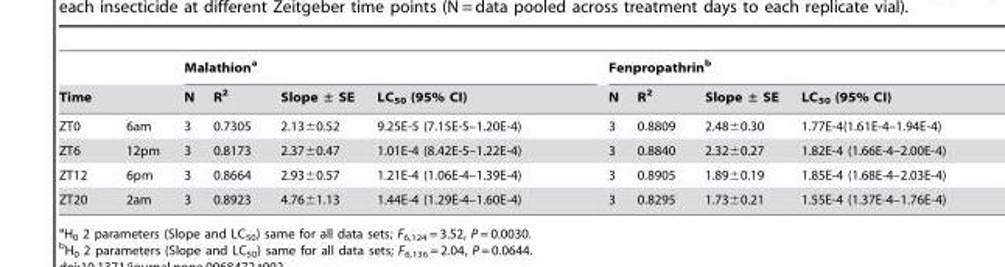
<table><thead><tr><td></td><td></td><td colspan="4">Malathion<sup>a</sup></td><td colspan="4">Fenpropathrin<sup>b</sup></td></tr><tr><td colspan="2">Time</td><td>N</td><td>R<sup>2</sup></td><td>Slope ± SE</td><td>LC<sub>50</sub> (95% CI)</td><td>N</td><td>R<sup>2</sup></td><td>Slope ± SE</td><td>LC<sub>50</sub> (95% CI)</td></tr></thead><tbody><tr><td>ZT0</td><td>6am</td><td>3</td><td>0.7305</td><td>2.13±0.52</td><td>9.25E-5 (7.15E-5–1.20E-4)</td><td>3</td><td>0.8809</td><td>2.48±0.30</td><td>1.77E-4(1.61E-4–1.94E-4)</td></tr><tr><td>ZT6</td><td>12pm</td><td>3</td><td>0.8173</td><td>2.37±0.47</td><td>1.01E-4 (8.42E-5–1.22E-4)</td><td>3</td><td>0.8840</td><td>2.32±0.27</td><td>1.82E-4 (1.66E-4–2.00E-4)</td></tr><tr><td>ZT12</td><td>6pm</td><td>3</td><td>0.8664</td><td>2.93±0.57</td><td>1.21E-4 (1.06E-4–1.39E-4)</td><td>3</td><td>0.8905</td><td>1.89±0.19</td><td>1.85E-4 (1.68E-4–2.03E-4)</td></tr><tr><td>ZT20</td><td>2am</td><td>3</td><td>0.8923</td><td>4.76±1.13</td><td>1.44E-4 (1.29E-4–1.60E-4)</td><td>3</td><td>0.8295</td><td>1.73±0.21</td><td>1.55E-4 (1.37E-4–1.76E-4)</td></tr></tbody></table>